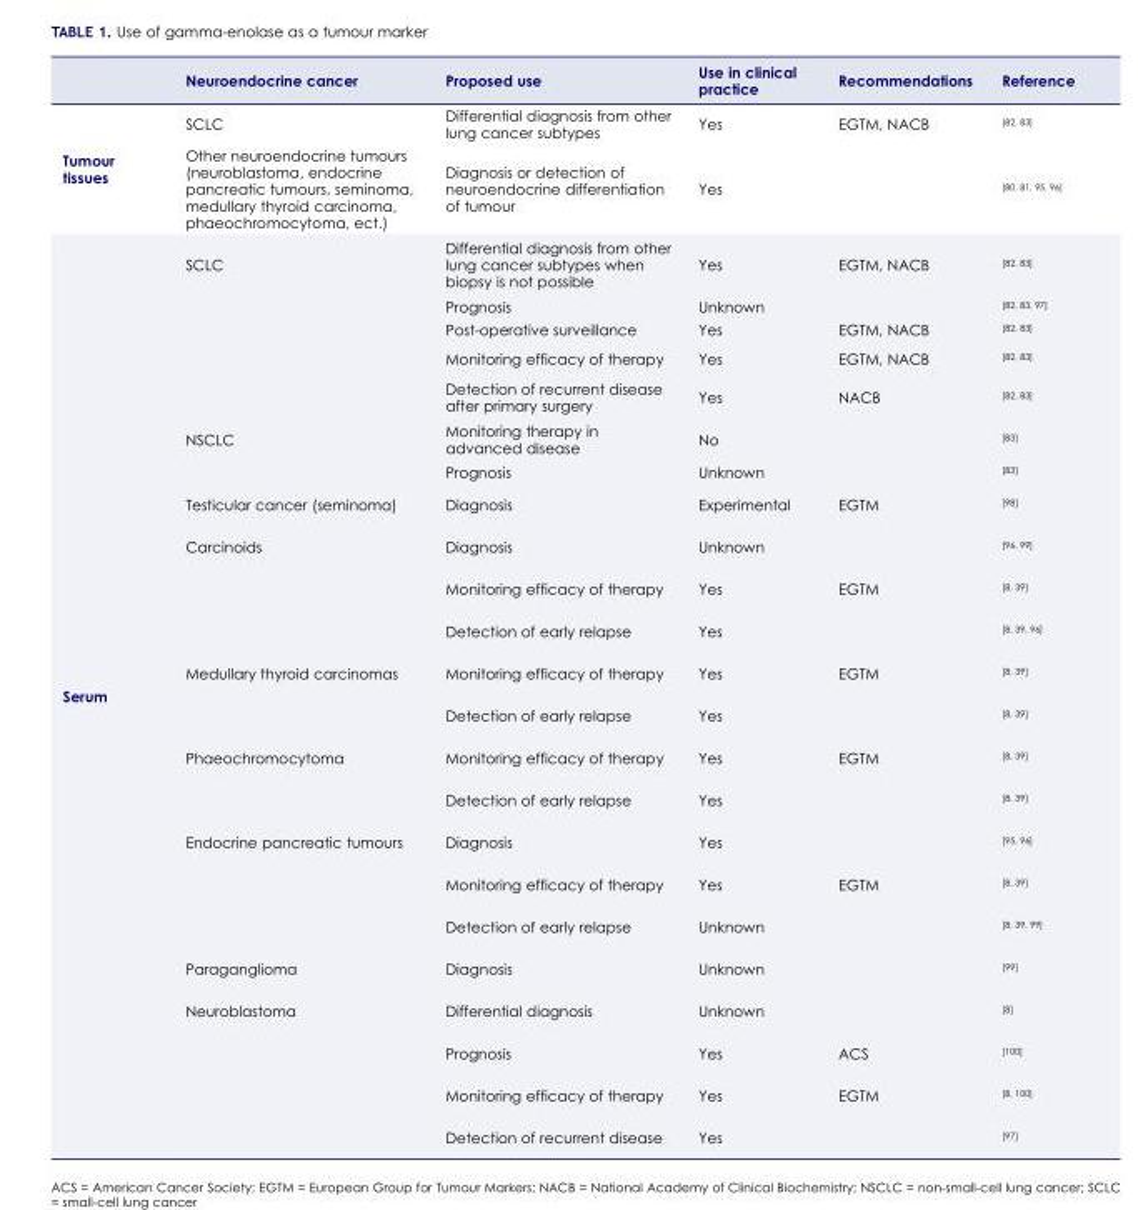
<table><thead><tr><td></td><td>Neuroendocrine cancer</td><td>Proposed use</td><td>Use in clinical practice</td><td>Recommendations</td><td>Reference</td></tr></thead><tbody><tr><td rowspan="2">Tumour tissues</td><td>SCLC</td><td>Differential diagnosis from other lung cancer subtypes</td><td>Yes</td><td>EGTM, NACB</td><td><sup>[82, 83]</sup></td></tr><tr><td>Other neuroendocrine tumours (neuroblastoma, endocrine pancreatic tumours, seminoma, medullary thyroid carcinoma, phaeochromocytoma, ect.)</td><td>Diagnosis or detection of neuroendocrine differentiation of tumour</td><td>Yes</td><td></td><td><sup>[80, 81, 95, 96]</sup></td></tr><tr><td rowspan="23">Serum</td><td>SCLC</td><td>Differential diagnosis from other lung cancer subtypes when biopsy is not possible</td><td>Yes</td><td>EGTM, NACB</td><td><sup>[82, 83]</sup></td></tr><tr><td></td><td>Prognosis</td><td>Unknown</td><td></td><td><sup>[82, 83, 97]</sup></td></tr><tr><td></td><td>Post-operative surveillance</td><td>Yes</td><td>EGTM, NACB</td><td><sup>[82, 83]</sup></td></tr><tr><td></td><td>Monitoring efficacy of therapy</td><td>Yes</td><td>EGTM, NACB</td><td><sup>[82, 83]</sup></td></tr><tr><td></td><td>Detection of recurrent disease after primary surgery</td><td>Yes</td><td>NACB</td><td><sup>[82, 83]</sup></td></tr><tr><td>NSCLC</td><td>Monitoring therapy in advanced disease</td><td>No</td><td></td><td><sup>[83]</sup></td></tr><tr><td></td><td>Prognosis</td><td>Unknown</td><td></td><td><sup>[83]</sup></td></tr><tr><td>Testicular cancer (seminoma)</td><td>Diagnosis</td><td>Experimental</td><td>EGTM</td><td><sup>[98]</sup></td></tr><tr><td>Carcinoids</td><td>Diagnosis</td><td>Unknown</td><td></td><td><sup>[96, 99]</sup></td></tr><tr><td></td><td>Monitoring efficacy of therapy</td><td>Yes</td><td>EGTM</td><td><sup>[8, 39]</sup></td></tr><tr><td></td><td>Detection of early relapse</td><td>Yes</td><td></td><td><sup>[8, 39, 96]</sup></td></tr><tr><td>Medullary thyroid carcinomas</td><td>Monitoring efficacy of therapy</td><td>Yes</td><td>EGTM</td><td><sup>[8, 39]</sup></td></tr><tr><td></td><td>Detection of early relapse</td><td>Yes</td><td></td><td><sup>[8, 39]</sup></td></tr><tr><td>Phaeochromocytoma</td><td>Monitoring efficacy of therapy</td><td>Yes</td><td>EGTM</td><td><sup>[8, 39]</sup></td></tr><tr><td></td><td>Detection of early relapse</td><td>Yes</td><td></td><td><sup>[8, 39]</sup></td></tr><tr><td>Endocrine pancreatic tumours</td><td>Diagnosis</td><td>Yes</td><td></td><td><sup>[95, 96]</sup></td></tr><tr><td></td><td>Monitoring efficacy of therapy</td><td>Yes</td><td>EGTM</td><td><sup>[8, 39]</sup></td></tr><tr><td></td><td>Detection of early relapse</td><td>Unknown</td><td></td><td><sup>[8, 39, 99]</sup></td></tr><tr><td>Paraganglioma</td><td>Diagnosis</td><td>Unknown</td><td></td><td><sup>[99]</sup></td></tr><tr><td>Neuroblastoma</td><td>Differential diagnosis</td><td>Unknown</td><td></td><td><sup>[8]</sup></td></tr><tr><td></td><td>Prognosis</td><td>Yes</td><td>ACS</td><td><sup>[100]</sup></td></tr><tr><td></td><td>Monitoring efficacy of therapy</td><td>Yes</td><td>EGTM</td><td><sup>[8, 100]</sup></td></tr><tr><td></td><td>Detection of recurrent disease</td><td>Yes</td><td></td><td><sup>[97]</sup></td></tr></tbody></table>